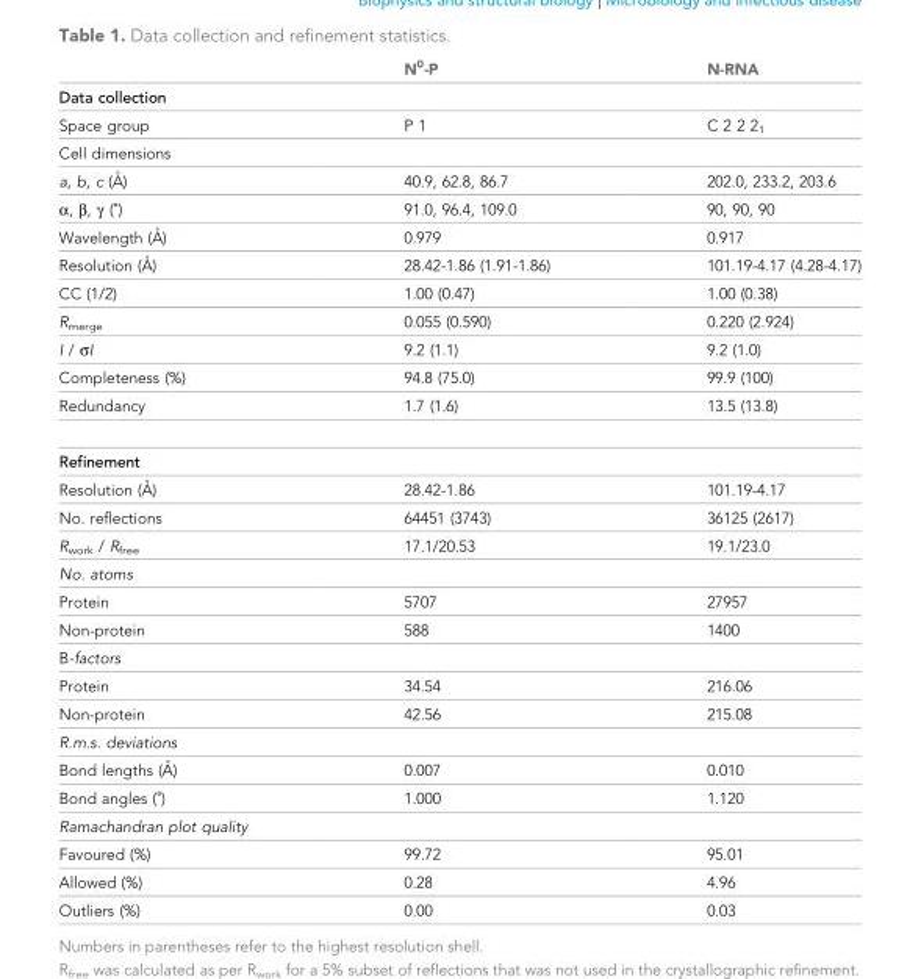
<table><thead><tr><td></td><td>N<sup>0</sup>-P</td><td>N-RNA</td></tr></thead><tbody><tr><td colspan="3">Data collection</td></tr><tr><td>Space group</td><td>P 1</td><td>C 2 2 2<sub>1</sub></td></tr><tr><td colspan="3">Cell dimensions</td></tr><tr><td>a, b, c (A˚ )</td><td>40.9, 62.8, 86.7</td><td>202.0, 233.2, 203.6</td></tr><tr><td>α, β, γ (˚)</td><td>91.0, 96.4, 109.0</td><td>90, 90, 90</td></tr><tr><td>Wavelength (A˚ )</td><td>0.979</td><td>0.917</td></tr><tr><td>Resolution (A˚ )</td><td>28.42-1.86 (1.91-1.86)</td><td>101.19-4.17 (4.28-4.17)</td></tr><tr><td>CC (1/2)</td><td>1.00 (0.47)</td><td>1.00 (0.38)</td></tr><tr><td>R<sub>merge</sub></td><td>0.055 (0.590)</td><td>0.220 (2.924)</td></tr><tr><td>I / σI</td><td>9.2 (1.1)</td><td>9.2 (1.0)</td></tr><tr><td>Completeness (%)</td><td>94.8 (75.0)</td><td>99.9 (100)</td></tr><tr><td>Redundancy</td><td>1.7 (1.6)</td><td>13.5 (13.8)</td></tr><tr><td colspan="3">Refinement</td></tr><tr><td>Resolution (A˚ )</td><td>28.42-1.86</td><td>101.19-4.17</td></tr><tr><td>No. reflections</td><td>64451 (3743)</td><td>36125 (2617)</td></tr><tr><td>R<sub>work</sub> / R<sub>free</sub></td><td>17.1/20.53</td><td>19.1/23.0</td></tr><tr><td colspan="3">No. atoms</td></tr><tr><td>Protein</td><td>5707</td><td>27957</td></tr><tr><td>Non-protein</td><td>588</td><td>1400</td></tr><tr><td colspan="3">B-factors</td></tr><tr><td>Protein</td><td>34.54</td><td>216.06</td></tr><tr><td>Non-protein</td><td>42.56</td><td>215.08</td></tr><tr><td colspan="3">R.m.s. deviations</td></tr><tr><td>Bond lengths (A˚ )</td><td>0.007</td><td>0.010</td></tr><tr><td>Bond angles (˚)</td><td>1.000</td><td>1.120</td></tr><tr><td colspan="3">Ramachandran plot quality</td></tr><tr><td>Favoured (%)</td><td>99.72</td><td>95.01</td></tr><tr><td>Allowed (%)</td><td>0.28</td><td>4.96</td></tr><tr><td>Outliers (%)</td><td>0.00</td><td>0.03</td></tr></tbody></table>